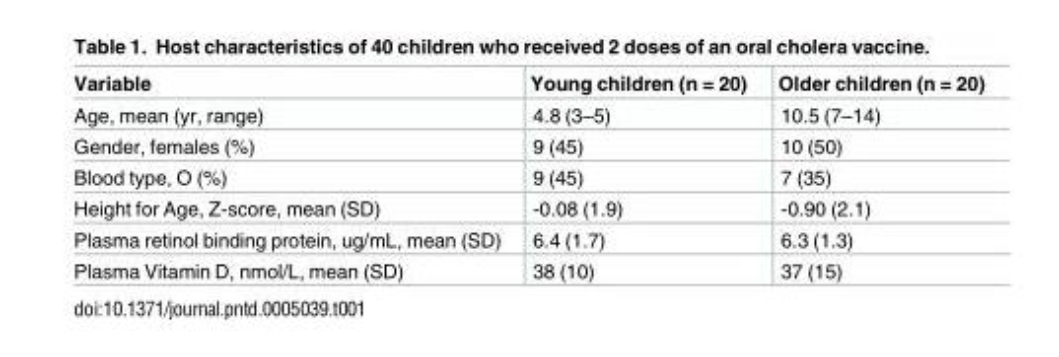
<table><thead><tr><td>Variable</td><td>Young children (n = 20)</td><td>Older children (n = 20)</td></tr></thead><tbody><tr><td>Age, mean (yr, range)</td><td>4.8 (3–5)</td><td>10.5 (7–14)</td></tr><tr><td>Gender, females (%)</td><td>9 (45)</td><td>10 (50)</td></tr><tr><td>Blood type, O (%)</td><td>9 (45)</td><td>7 (35)</td></tr><tr><td>Height for Age, Z-score, mean (SD)</td><td>-0.08 (1.9)</td><td>-0.90 (2.1)</td></tr><tr><td>Plasma retinol binding protein, ug/mL, mean (SD)</td><td>6.4 (1.7)</td><td>6.3 (1.3)</td></tr><tr><td>Plasma Vitamin D, nmol/L, mean (SD)</td><td>38 (10)</td><td>37 (15)</td></tr></tbody></table>